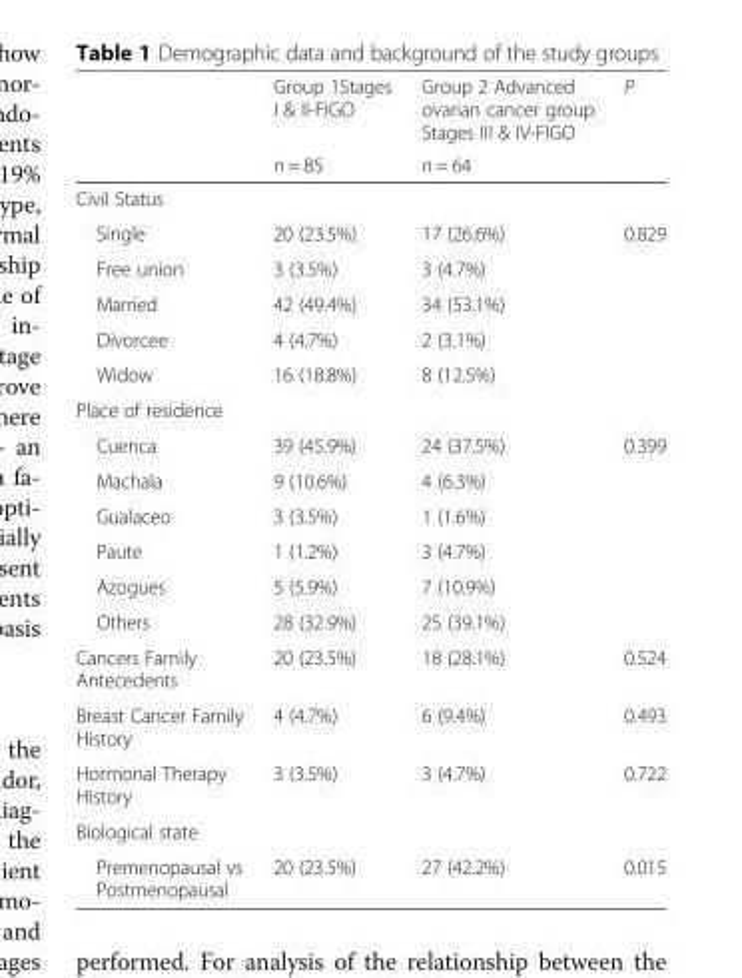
<table><thead><tr><td rowspan="2"></td><td rowspan="2">Group 1Stages I &amp; II-FIGO n = 85</td><td rowspan="2">Group 2 Advanced ovarian cancer group Stages III &amp; IV-FIGO n = 64</td><td rowspan="2">P</td></tr><tr></tr></thead><tbody><tr><td colspan="4">Civil Status</td></tr><tr><td>Single</td><td>20 (23.5%)</td><td>17 (26.6%)</td><td rowspan="5">0.829</td></tr><tr><td>Free union</td><td>3 (3.5%)</td><td>3 (4.7%)</td></tr><tr><td>Married</td><td>42 (49.4%)</td><td>34 (53.1%)</td></tr><tr><td>Divorcee</td><td>4 (4.7%)</td><td>2 (3.1%)</td></tr><tr><td>Widow</td><td>16 (18.8%)</td><td>8 (12.5%)</td></tr><tr><td colspan="4">Place of residence</td></tr><tr><td>Cuenca</td><td>39 (45.9%)</td><td>24 (37.5%)</td><td rowspan="6">0.399</td></tr><tr><td>Machala</td><td>9 (10.6%)</td><td>4 (6.3%)</td></tr><tr><td>Gualaceo</td><td>3 (3.5%)</td><td>1 (1.6%)</td></tr><tr><td>Paute</td><td>1 (1.2%)</td><td>3 (4.7%)</td></tr><tr><td>Azogues</td><td>5 (5.9%)</td><td>7 (10.9%)</td></tr><tr><td>Others</td><td>28 (32.9%)</td><td>25 (39.1%)</td></tr><tr><td>Cancers Family Antecedents</td><td>20 (23.5%)</td><td>18 (28.1%)</td><td>0.524</td></tr><tr><td>Breast Cancer Family History</td><td>4 (4.7%)</td><td>6 (9.4%)</td><td>0.493</td></tr><tr><td>Hormonal Therapy History</td><td>3 (3.5%)</td><td>3 (4.7%)</td><td>0.722</td></tr><tr><td colspan="4">Biological state</td></tr><tr><td>Premenopausal vs Postmenopausal</td><td>20 (23.5%)</td><td>27 (42.2%)</td><td>0.015</td></tr></tbody></table>